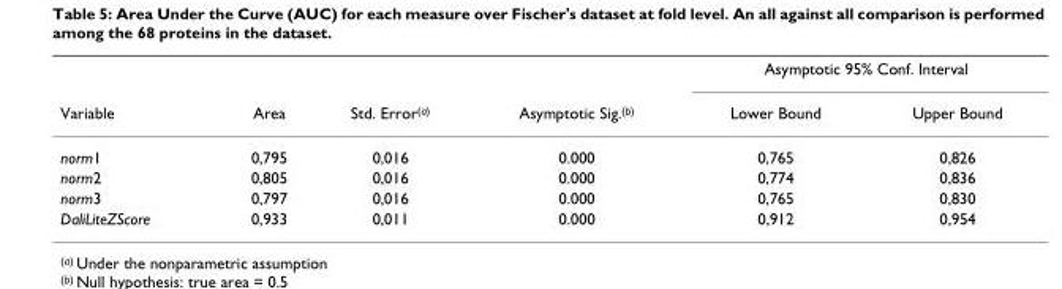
<table><thead><tr><td rowspan="2">Variable</td><td rowspan="2">Area</td><td rowspan="2">Std. Error<sup>(a)</sup></td><td rowspan="2">Asymptotic Sig.<sup>(b)</sup></td><td colspan="2">Asymptotic 95% Conf. Interval</td></tr><tr><td>Lower Bound</td><td>Upper Bound</td></tr></thead><tbody><tr><td>norm1</td><td>0,795</td><td>0,016</td><td>0.000</td><td>0,765</td><td>0,826</td></tr><tr><td>norm2</td><td>0,805</td><td>0,016</td><td>0.000</td><td>0,774</td><td>0,836</td></tr><tr><td>norm3</td><td>0,797</td><td>0,016</td><td>0.000</td><td>0,765</td><td>0,830</td></tr><tr><td>DaliLiteZScore</td><td>0,933</td><td>0,011</td><td>0.000</td><td>0,912</td><td>0,954</td></tr></tbody></table>